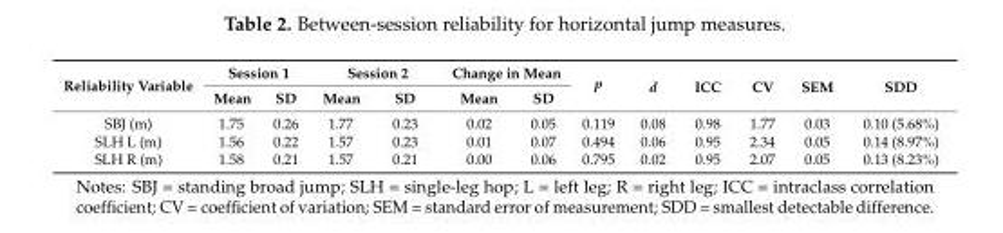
<table><thead><tr><td rowspan="2">Reliability Variable</td><td colspan="2">Session 1</td><td colspan="2">Session 2</td><td colspan="2">Change in Mean</td><td rowspan="2">p</td><td rowspan="2">d</td><td rowspan="2">ICC</td><td rowspan="2">CV</td><td rowspan="2">SEM</td><td rowspan="2">SDD</td></tr><tr><td>Mean</td><td>SD</td><td>Mean</td><td>SD</td><td>Mean</td><td>SD</td></tr></thead><tbody><tr><td>SBJ (m)</td><td>1.75</td><td>0.26</td><td>1.77</td><td>0.23</td><td>0.02</td><td>0.05</td><td>0.119</td><td>0.08</td><td>0.98</td><td>1.77</td><td>0.03</td><td>0.10 (5.68%)</td></tr><tr><td>SLH L (m)</td><td>1.56</td><td>0.22</td><td>1.57</td><td>0.23</td><td>0.01</td><td>0.07</td><td>0.494</td><td>0.06</td><td>0.95</td><td>2.34</td><td>0.05</td><td>0.14 (8.97%)</td></tr><tr><td>SLH R (m)</td><td>1.58</td><td>0.21</td><td>1.57</td><td>0.21</td><td>0.00</td><td>0.06</td><td>0.795</td><td>0.02</td><td>0.95</td><td>2.07</td><td>0.05</td><td>0.13 (8.23%)</td></tr></tbody></table>